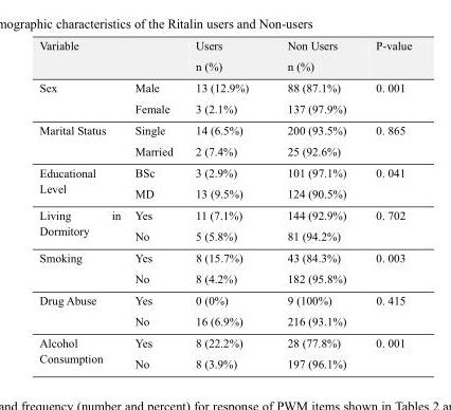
<table><thead><tr><td>Variable</td><td></td><td>Users n (%)</td><td>Non Users n (%)</td><td>P-value</td></tr></thead><tbody><tr><td rowspan="2">Sex</td><td>Male</td><td>13 (12.9%)</td><td>88 (87.1%)</td><td>0. 001</td></tr><tr><td>Female</td><td>3 (2.1%)</td><td>137 (97.9%)</td><td></td></tr><tr><td rowspan="2">Marital Status</td><td>Single</td><td>14 (6.5%)</td><td>200 (93.5%)</td><td>0. 865</td></tr><tr><td>Married</td><td>2 (7.4%)</td><td>25 (92.6%)</td><td></td></tr><tr><td rowspan="2">Educational Level</td><td>BSc</td><td>3 (2.9%)</td><td>101 (97.1%)</td><td>0. 041</td></tr><tr><td>MD</td><td>13 (9.5%)</td><td>124 (90.5%)</td><td></td></tr><tr><td rowspan="2">Living in Dormitory</td><td>Yes</td><td>11 (7.1%)</td><td>144 (92.9%)</td><td>0. 702</td></tr><tr><td>No</td><td>5 (5.8%)</td><td>81 (94.2%)</td><td></td></tr><tr><td rowspan="2">Smoking</td><td>Yes</td><td>8 (15.7%)</td><td>43 (84.3%)</td><td>0. 003</td></tr><tr><td>No</td><td>8 (4.2%)</td><td>182 (95.8%)</td><td></td></tr><tr><td rowspan="2">Drug Abuse</td><td>Yes</td><td>0 (0%)</td><td>9 (100%)</td><td>0. 415</td></tr><tr><td>No</td><td>16 (6.9%)</td><td>216 (93.1%)</td><td></td></tr><tr><td rowspan="2">Alcohol Consumption</td><td>Yes</td><td>8 (22.2%)</td><td>28 (77.8%)</td><td>0. 001</td></tr><tr><td>No</td><td>8 (3.9%)</td><td>197 (96.1%)</td><td></td></tr></tbody></table>